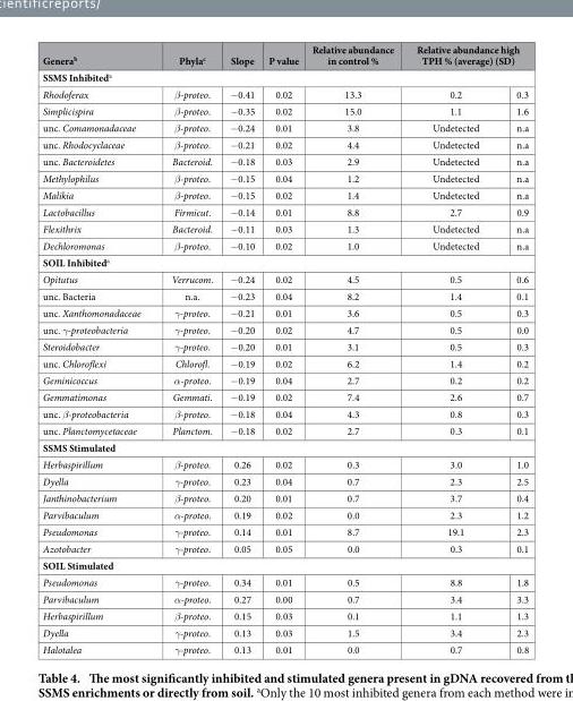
<table><thead><tr><td>Genera<sup>b</sup></td><td>Phyla<sup>c</sup></td><td>Slope</td><td>P value</td><td>Relative abundance in control %</td><td colspan="2">Relative abundance high TPH % (average) (SD)</td></tr><tr><td colspan="7">SSMS Inhibited<sup>a</sup></td></tr><tr><td>Rhodoferax</td><td>β-proteo.</td><td>− 0.41</td><td>0.02</td><td>13.3</td><td>0.2</td><td>0.3</td></tr></thead><tbody><tr><td>Simplicispira</td><td>β-proteo.</td><td>− 0.35</td><td>0.02</td><td>15.0</td><td>1.1</td><td>1.6</td></tr><tr><td>unc. Comamonadaceae</td><td>β-proteo.</td><td>− 0.24</td><td>0.01</td><td>3.8</td><td>Undetected</td><td>n.a</td></tr><tr><td>unc. Rhodocyclaceae</td><td>β-proteo.</td><td>− 0.21</td><td>0.02</td><td>4.4</td><td>Undetected</td><td>n.a</td></tr><tr><td>unc. Bacteroidetes</td><td>Bacteroid.</td><td>− 0.18</td><td>0.03</td><td>2.9</td><td>Undetected</td><td>n.a</td></tr><tr><td>Methylophilus</td><td>β-proteo.</td><td>− 0.15</td><td>0.04</td><td>1.2</td><td>Undetected</td><td>n.a</td></tr><tr><td>Malikia</td><td>β-proteo.</td><td>− 0.15</td><td>0.02</td><td>1.4</td><td>Undetected</td><td>n.a</td></tr><tr><td>Lactobacillus</td><td>Firmicut.</td><td>− 0.14</td><td>0.01</td><td>8.8</td><td>2.7</td><td>0.9</td></tr><tr><td>Flexithrix</td><td>Bacteroid.</td><td>− 0.11</td><td>0.03</td><td>1.3</td><td>Undetected</td><td>n.a</td></tr><tr><td>Dechloromonas</td><td>β-proteo.</td><td>− 0.10</td><td>0.02</td><td>1.0</td><td>Undetected</td><td>n.a</td></tr><tr><td colspan="7">SOIL Inhibited<sup>a</sup></td></tr><tr><td>Opitutus</td><td>Verrucom.</td><td>− 0.24</td><td>0.02</td><td>4.5</td><td>0.5</td><td>0.6</td></tr><tr><td>unc. Bacteria</td><td>n.a.</td><td>− 0.23</td><td>0.04</td><td>8.2</td><td>1.4</td><td>0.1</td></tr><tr><td>unc. Xanthomonadaceae</td><td>γ-proteo.</td><td>− 0.21</td><td>0.01</td><td>3.6</td><td>0.5</td><td>0.3</td></tr><tr><td>unc. γ-proteobacteria</td><td>γ-proteo.</td><td>− 0.20</td><td>0.02</td><td>4.7</td><td>0.5</td><td>0.0</td></tr><tr><td>Steroidobacter</td><td>γ-proteo.</td><td>− 0.20</td><td>0.01</td><td>3.1</td><td>0.5</td><td>0.3</td></tr><tr><td>unc. Chloroflexi</td><td>Chlorofl.</td><td>− 0.19</td><td>0.02</td><td>6.2</td><td>1.4</td><td>0.2</td></tr><tr><td>Geminicoccus</td><td>α-proteo.</td><td>− 0.19</td><td>0.04</td><td>2.7</td><td>0.2</td><td>0.2</td></tr><tr><td>Gemmatimonas</td><td>Gemmati.</td><td>− 0.19</td><td>0.02</td><td>7.4</td><td>2.6</td><td>0.7</td></tr><tr><td>unc. β-proteobacteria</td><td>β-proteo.</td><td>− 0.18</td><td>0.04</td><td>4.3</td><td>0.8</td><td>0.3</td></tr><tr><td>unc. Planctomycetaceae</td><td>Planctom.</td><td>− 0.18</td><td>0.02</td><td>2.7</td><td>0.3</td><td>0.1</td></tr><tr><td colspan="7">SSMS Stimulated</td></tr><tr><td>Herbaspirillum</td><td>β-proteo.</td><td>0.26</td><td>0.02</td><td>0.3</td><td>3.0</td><td>1.0</td></tr><tr><td>Dyella</td><td>γ-proteo.</td><td>0.23</td><td>0.04</td><td>0.7</td><td>2.3</td><td>2.5</td></tr><tr><td>Janthinobacterium</td><td>β-proteo.</td><td>0.20</td><td>0.01</td><td>0.7</td><td>3.7</td><td>0.4</td></tr><tr><td>Parvibaculum</td><td>α-proteo.</td><td>0.19</td><td>0.02</td><td>0.0</td><td>2.3</td><td>1.2</td></tr><tr><td>Pseudomonas</td><td>γ-proteo.</td><td>0.14</td><td>0.01</td><td>8.7</td><td>19.1</td><td>2.3</td></tr><tr><td>Azotobacter</td><td>γ-proteo.</td><td>0.05</td><td>0.05</td><td>0.0</td><td>0.3</td><td>0.1</td></tr><tr><td colspan="7">SOIL Stimulated</td></tr><tr><td>Pseudomonas</td><td>γ-proteo.</td><td>0.34</td><td>0.01</td><td>0.5</td><td>8.8</td><td>1.8</td></tr><tr><td>Parvibaculum</td><td>α-proteo.</td><td>0.27</td><td>0.00</td><td>0.7</td><td>3.4</td><td>3.3</td></tr><tr><td>Herbaspirillum</td><td>β-proteo.</td><td>0.15</td><td>0.03</td><td>0.1</td><td>1.1</td><td>1.3</td></tr><tr><td>Dyella</td><td>γ-proteo.</td><td>0.13</td><td>0.03</td><td>1.5</td><td>3.4</td><td>2.3</td></tr><tr><td>Halotalea</td><td>γ-proteo.</td><td>0.13</td><td>0.01</td><td>0.0</td><td>0.7</td><td>0.8</td></tr></tbody></table>